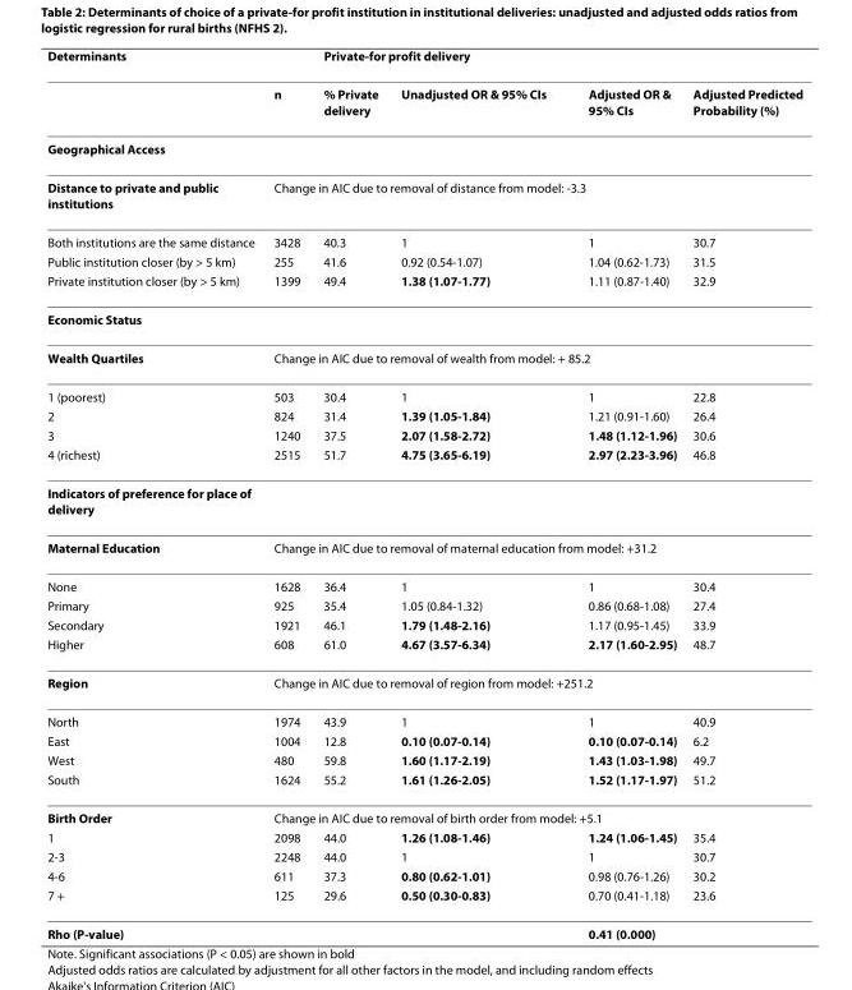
<table><thead><tr><td rowspan="2">Determinants</td><td rowspan="2">n</td><td colspan="4">Private-for profit delivery</td></tr><tr><td>% Private delivery</td><td>Unadjusted OR &amp; 95% CIs</td><td>Adjusted OR &amp; 95% CIs</td><td>Adjusted Predicted Probability (%)</td></tr></thead><tbody><tr><td colspan="6">Geographical Access</td></tr><tr><td>Distance to private and public institutions</td><td colspan="5">Change in AIC due to removal of distance from model: -3.3</td></tr><tr><td>Both institutions are the same distance</td><td>3428</td><td>40.3</td><td>1</td><td>1</td><td>30.7</td></tr><tr><td>Public institution closer (by &gt; 5 km)</td><td>255</td><td>41.6</td><td>0.92 (0.54-1.07)</td><td>1.04 (0.62-1.73)</td><td>31.5</td></tr><tr><td>Private institution closer (by &gt; 5 km)</td><td>1399</td><td>49.4</td><td>1.38 (1.07-1.77)</td><td>1.11 (0.87-1.40)</td><td>32.9</td></tr><tr><td colspan="6">Economic Status</td></tr><tr><td>Wealth Quartiles</td><td colspan="5">Change in AIC due to removal of wealth from model: + 85.2</td></tr><tr><td>1 (poorest)</td><td>503</td><td>30.4</td><td>1</td><td>1</td><td>22.8</td></tr><tr><td>2</td><td>824</td><td>31.4</td><td>1.39 (1.05-1.84)</td><td>1.21 (0.91-1.60)</td><td>26.4</td></tr><tr><td>3</td><td>1240</td><td>37.5</td><td>2.07 (1.58-2.72)</td><td>1.48 (1.12-1.96)</td><td>30.6</td></tr><tr><td>4 (richest)</td><td>2515</td><td>51.7</td><td>4.75 (3.65-6.19)</td><td>2.97 (2.23-3.96)</td><td>46.8</td></tr><tr><td colspan="6">Indicators of preference for place of delivery</td></tr><tr><td>Maternal Education</td><td colspan="5">Change in AIC due to removal of maternal education from model: +31.2</td></tr><tr><td>None</td><td>1628</td><td>36.4</td><td>1</td><td>1</td><td>30.4</td></tr><tr><td>Primary</td><td>925</td><td>35.4</td><td>1.05 (0.84-1.32)</td><td>0.86 (0.68-1.08)</td><td>27.4</td></tr><tr><td>Secondary</td><td>1921</td><td>46.1</td><td>1.79 (1.48-2.16)</td><td>1.17 (0.95-1.45)</td><td>33.9</td></tr><tr><td>Higher</td><td>608</td><td>61.0</td><td>4.67 (3.57-6.34)</td><td>2.17 (1.60-2.95)</td><td>48.7</td></tr><tr><td>Region</td><td colspan="5">Change in AIC due to removal of region from model: +251.2</td></tr><tr><td>North</td><td>1974</td><td>43.9</td><td>1</td><td>1</td><td>40.9</td></tr><tr><td>East</td><td>1004</td><td>12.8</td><td>0.10 (0.07-0.14)</td><td>0.10 (0.07-0.14)</td><td>6.2</td></tr><tr><td>West</td><td>480</td><td>59.8</td><td>1.60 (1.17-2.19)</td><td>1.43 (1.03-1.98)</td><td>49.7</td></tr><tr><td>South</td><td>1624</td><td>55.2</td><td>1.61 (1.26-2.05)</td><td>1.52 (1.17-1.97)</td><td>51.2</td></tr><tr><td>Birth Order</td><td colspan="5">Change in AIC due to removal of birth order from model: +5.1</td></tr><tr><td>1</td><td>2098</td><td>44.0</td><td>1.26 (1.08-1.46)</td><td>1.24 (1.06-1.45)</td><td>35.4</td></tr><tr><td>2-3</td><td>2248</td><td>44.0</td><td>1</td><td>1</td><td>30.7</td></tr><tr><td>4-6</td><td>611</td><td>37.3</td><td>0.80 (0.62-1.01)</td><td>0.98 (0.76-1.26)</td><td>30.2</td></tr><tr><td>7 +</td><td>125</td><td>29.6</td><td>0.50 (0.30-0.83)</td><td>0.70 (0.41-1.18)</td><td>23.6</td></tr><tr><td>Rho (P-value)</td><td></td><td></td><td></td><td>0.41 (0.000)</td><td></td></tr></tbody></table>